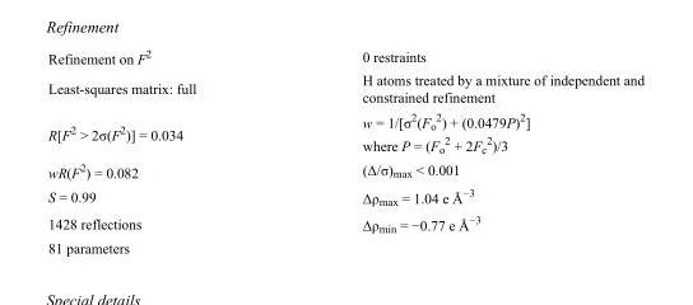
<table><tbody><tr><td>Refinement on F<sup>2</sup></td><td>0 restraints</td></tr><tr><td>Least-squares matrix: full</td><td>H atoms treated by a mixture of independent and constrained refinement</td></tr><tr><td>R[F<sup>2</sup> &gt; 2σ(F<sup>2</sup>)] = 0.034</td><td>w = 1/[σ<sup>2</sup>(F<sub>o</sub> <sup>2</sup>) + (0.0479P)<sup>2</sup>] where P = (F<sub>o</sub> <sup>2</sup> + 2F<sub>c</sub> <sup>2</sup>)/3</td></tr><tr><td>wR(F<sup>2</sup>) = 0.082</td><td>(Δ/σ)<sub>max</sub> &lt; 0.001</td></tr><tr><td>S = 0.99</td><td>Δρ<sub>max</sub> = 1.04 e Å<sup>−3</sup></td></tr><tr><td>1428 reflections</td><td>Δρ<sub>min</sub> = −0.77 e Å<sup>−3</sup></td></tr><tr><td>81 parameters</td><td></td></tr></tbody></table>